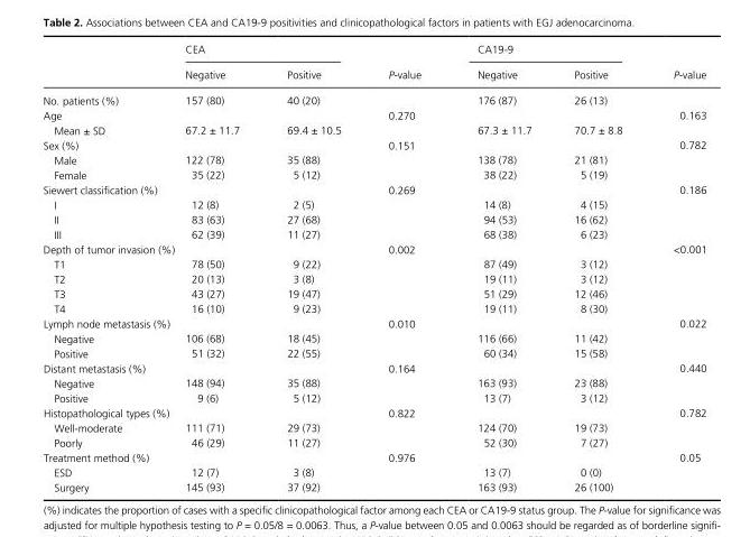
<table><thead><tr><td rowspan="2"></td><td colspan="2">CEA</td><td rowspan="2">P-value</td><td colspan="2">CA19- 9</td><td rowspan="2">P-value</td></tr><tr><td>Negative</td><td>Positive</td><td>Negative</td><td>Positive</td></tr></thead><tbody><tr><td>No. patients (%)</td><td>157 (80)</td><td>40 (20)</td><td></td><td>176 (87)</td><td>26 (13)</td><td></td></tr><tr><td>Age</td><td></td><td></td><td>0.270</td><td></td><td></td><td>0.163</td></tr><tr><td>Mean ± SD</td><td>67.2 ± 11.7</td><td>69.4 ± 10.5</td><td></td><td>67.3 ± 11.7</td><td>70.7 ± 8.8</td><td></td></tr><tr><td>Sex (%)</td><td></td><td></td><td>0.151</td><td></td><td></td><td>0.782</td></tr><tr><td>Male</td><td>122 (78)</td><td>35 (88)</td><td></td><td>138 (78)</td><td>21 (81)</td><td></td></tr><tr><td>Female</td><td>35 (22)</td><td>5 (12)</td><td></td><td>38 (22)</td><td>5 (19)</td><td></td></tr><tr><td>Siewert classification (%)</td><td></td><td></td><td>0.269</td><td></td><td></td><td>0.186</td></tr><tr><td>I</td><td>12 (8)</td><td>2 (5)</td><td></td><td>14 (8)</td><td>4 (15)</td><td></td></tr><tr><td>II</td><td>83 (63)</td><td>27 (68)</td><td></td><td>94 (53)</td><td>16 (62)</td><td></td></tr><tr><td>III</td><td>62 (39)</td><td>11 (27)</td><td></td><td>68 (38)</td><td>6 (23)</td><td></td></tr><tr><td>Depth of tumor invasion (%)</td><td></td><td></td><td>0.002</td><td></td><td></td><td>&lt;0.001</td></tr><tr><td>T1</td><td>78 (50)</td><td>9 (22)</td><td></td><td>87 (49)</td><td>3 (12)</td><td></td></tr><tr><td>T2</td><td>20 (13)</td><td>3 (8)</td><td></td><td>19 (11)</td><td>3 (12)</td><td></td></tr><tr><td>T3</td><td>43 (27)</td><td>19 (47)</td><td></td><td>51 (29)</td><td>12 (46)</td><td></td></tr><tr><td>T4</td><td>16 (10)</td><td>9 (23)</td><td></td><td>19 (11)</td><td>8 (30)</td><td></td></tr><tr><td>Lymph node metastasis (%)</td><td></td><td></td><td>0.010</td><td></td><td></td><td>0.022</td></tr><tr><td>Negative</td><td>106 (68)</td><td>18 (45)</td><td></td><td>116 (66)</td><td>11 (42)</td><td></td></tr><tr><td>Positive</td><td>51 (32)</td><td>22 (55)</td><td></td><td>60 (34)</td><td>15 (58)</td><td></td></tr><tr><td>Distant metastasis (%)</td><td></td><td></td><td>0.164</td><td></td><td></td><td>0.440</td></tr><tr><td>Negative</td><td>148 (94)</td><td>35 (88)</td><td></td><td>163 (93)</td><td>23 (88)</td><td></td></tr><tr><td>Positive</td><td>9 (6)</td><td>5 (12)</td><td></td><td>13 (7)</td><td>3 (12)</td><td></td></tr><tr><td>Histopathological types (%)</td><td></td><td></td><td>0.822</td><td></td><td></td><td>0.782</td></tr><tr><td>Well- moderate</td><td>111 (71)</td><td>29 (73)</td><td></td><td>124 (70)</td><td>19 (73)</td><td></td></tr><tr><td>Poorly</td><td>46 (29)</td><td>11 (27)</td><td></td><td>52 (30)</td><td>7 (27)</td><td></td></tr><tr><td>Treatment method (%)</td><td></td><td></td><td>0.976</td><td></td><td></td><td>0.05</td></tr><tr><td>ESD</td><td>12 (7)</td><td>3 (8)</td><td></td><td>13 (7)</td><td>0 (0)</td><td></td></tr><tr><td>Surgery</td><td>145 (93)</td><td>37 (92)</td><td></td><td>163 (93)</td><td>26 (100)</td><td></td></tr></tbody></table>